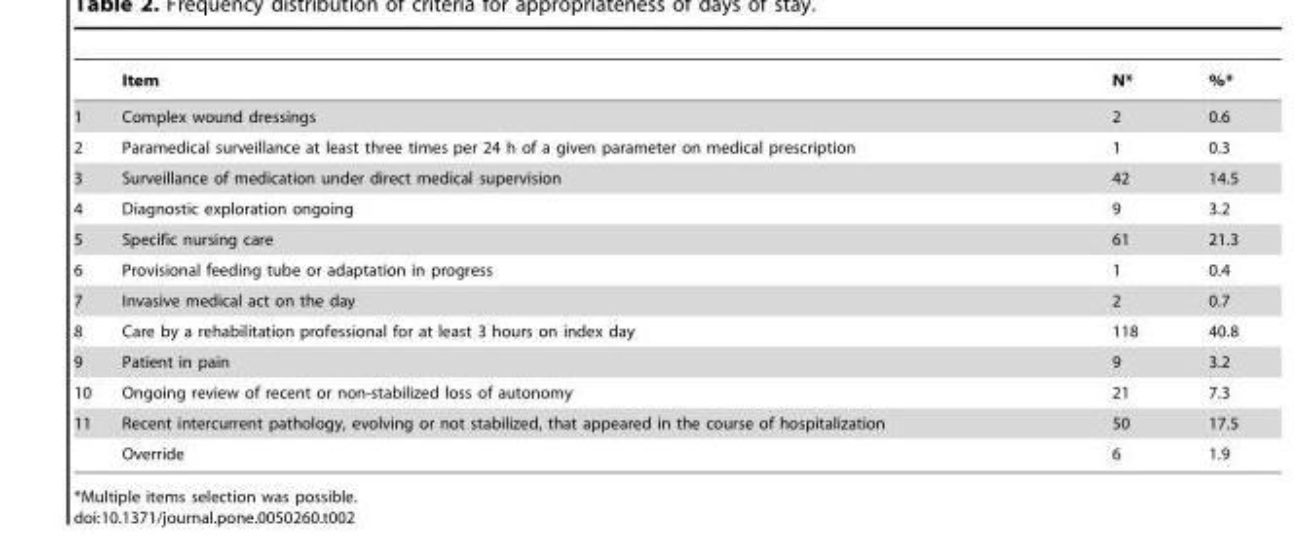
<table><thead><tr><td></td><td>Item</td><td>N*</td><td>%*</td></tr></thead><tbody><tr><td>1</td><td>Complex wound dressings</td><td>2</td><td>0.6</td></tr><tr><td>2</td><td>Paramedical surveillance at least three times per 24 h of a given parameter on medical prescription</td><td>1</td><td>0.3</td></tr><tr><td>3</td><td>Surveillance of medication under direct medical supervision</td><td>42</td><td>14.5</td></tr><tr><td>4</td><td>Diagnostic exploration ongoing</td><td>9</td><td>3.2</td></tr><tr><td>5</td><td>Specific nursing care</td><td>61</td><td>21.3</td></tr><tr><td>6</td><td>Provisional feeding tube or adaptation in progress</td><td>1</td><td>0.4</td></tr><tr><td>7</td><td>Invasive medical act on the day</td><td>2</td><td>0.7</td></tr><tr><td>8</td><td>Care by a rehabilitation professional for at least 3 hours on index day</td><td>118</td><td>40.8</td></tr><tr><td>9</td><td>Patient in pain</td><td>9</td><td>3.2</td></tr><tr><td>10</td><td>Ongoing review of recent or non-stabilized loss of autonomy</td><td>21</td><td>7.3</td></tr><tr><td rowspan="2">11</td><td>Recent intercurrent pathology, evolving or not stabilized, that appeared in the course of hospitalization</td><td>50</td><td>17.5</td></tr><tr><td>Override</td><td>6</td><td>1.9</td></tr></tbody></table>